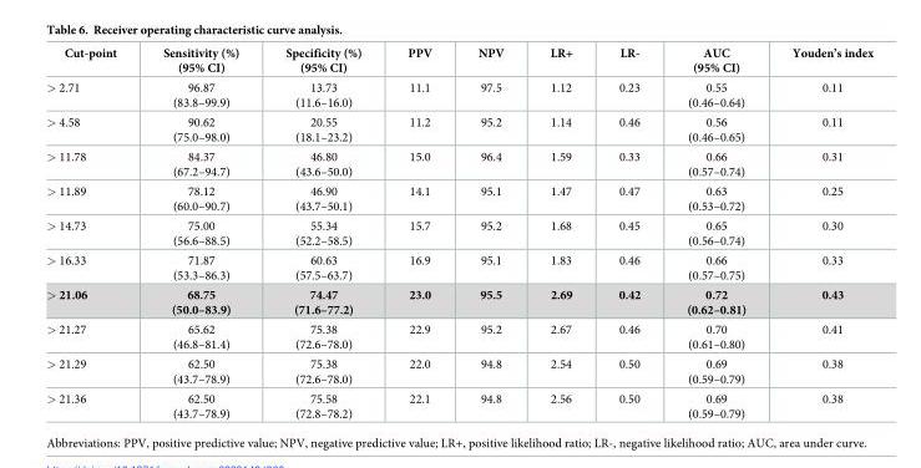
<table><thead><tr><td>Cut-point</td><td>Sensitivity (%) (95% CI)</td><td>Specificity (%) (95% CI)</td><td>PPV</td><td>NPV</td><td>LR+</td><td>LR-</td><td>AUC (95% CI)</td><td>Youden’s index</td></tr></thead><tbody><tr><td>&gt; 2.71</td><td>96.87 (83.8–99.9)</td><td>13.73 (11.6–16.0)</td><td>11.1</td><td>97.5</td><td>1.12</td><td>0.23</td><td>0.55 (0.46–0.64)</td><td>0.11</td></tr><tr><td>&gt; 4.58</td><td>90.62 (75.0–98.0)</td><td>20.55 (18.1–23.2)</td><td>11.2</td><td>95.2</td><td>1.14</td><td>0.46</td><td>0.56 (0.46–0.65)</td><td>0.11</td></tr><tr><td>&gt; 11.78</td><td>84.37 (67.2–94.7)</td><td>46.80 (43.6–50.0)</td><td>15.0</td><td>96.4</td><td>1.59</td><td>0.33</td><td>0.66 (0.57–0.74)</td><td>0.31</td></tr><tr><td>&gt; 11.89</td><td>78.12 (60.0–90.7)</td><td>46.90 (43.7–50.1)</td><td>14.1</td><td>95.1</td><td>1.47</td><td>0.47</td><td>0.63 (0.53–0.72)</td><td>0.25</td></tr><tr><td>&gt; 14.73</td><td>75.00 (56.6–88.5)</td><td>55.34 (52.2–58.5)</td><td>15.7</td><td>95.2</td><td>1.68</td><td>0.45</td><td>0.65 (0.56–0.74)</td><td>0.30</td></tr><tr><td>&gt; 16.33</td><td>71.87 (53.3–86.3)</td><td>60.63 (57.5–63.7)</td><td>16.9</td><td>95.1</td><td>1.83</td><td>0.46</td><td>0.66 (0.57–0.75)</td><td>0.33</td></tr><tr><td>&gt; 21.06</td><td>68.75 (50.0–83.9)</td><td>74.47 (71.6–77.2)</td><td>23.0</td><td>95.5</td><td>2.69</td><td>0.42</td><td>0.72 (0.62–0.81)</td><td>0.43</td></tr><tr><td>&gt; 21.27</td><td>65.62 (46.8–81.4)</td><td>75.38 (72.6–78.0)</td><td>22.9</td><td>95.2</td><td>2.67</td><td>0.46</td><td>0.70 (0.61–0.80)</td><td>0.41</td></tr><tr><td>&gt; 21.29</td><td>62.50 (43.7–78.9)</td><td>75.38 (72.6–78.0)</td><td>22.0</td><td>94.8</td><td>2.54</td><td>0.50</td><td>0.69 (0.59–0.79)</td><td>0.38</td></tr><tr><td>&gt; 21.36</td><td>62.50 (43.7–78.9)</td><td>75.58 (72.8–78.2)</td><td>22.1</td><td>94.8</td><td>2.56</td><td>0.50</td><td>0.69 (0.59–0.79)</td><td>0.38</td></tr></tbody></table>